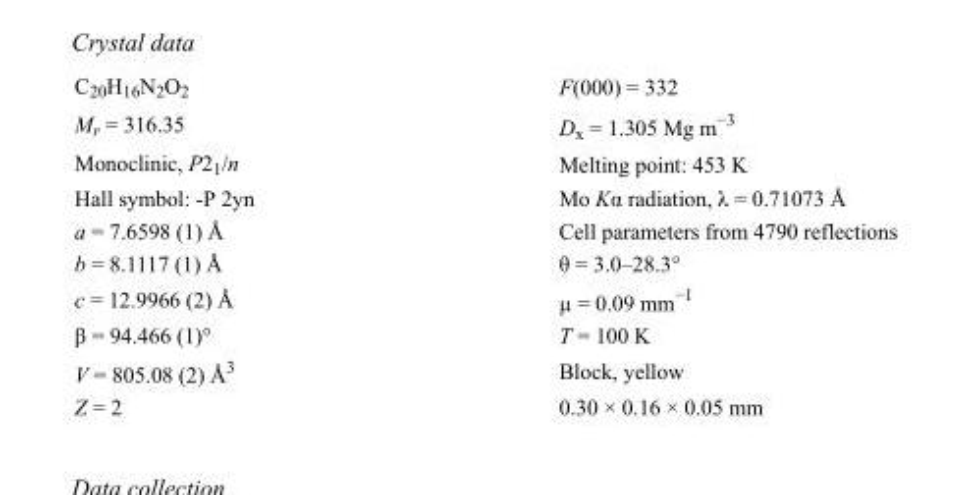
<table><tbody><tr><td>C<sub>20</sub>H<sub>16</sub>N<sub>2</sub>O<sub>2</sub></td><td>F(000) = 332</td></tr><tr><td>M<sub>r</sub> = 316.35</td><td>D<sub>x</sub> = 1.305 Mg m<sup>−3</sup></td></tr><tr><td>Monoclinic, P2<sub>1</sub>/n</td><td>Melting point: 453 K</td></tr><tr><td>Hall symbol: -P 2yn</td><td>Mo Kα radiation, λ = 0.71073 Å</td></tr><tr><td>a = 7.6598 (1) Å</td><td>Cell parameters from 4790 reflections</td></tr><tr><td>b = 8.1117 (1) Å</td><td>θ = 3.0–28.3°</td></tr><tr><td>c = 12.9966 (2) Å</td><td>µ = 0.09 mm<sup>−1</sup></td></tr><tr><td>β = 94.466 (1)°</td><td>T = 100 K</td></tr><tr><td>V = 805.08 (2) Å<sup>3</sup></td><td>Block, yellow</td></tr><tr><td>Z = 2</td><td>0.30 × 0.16 × 0.05 mm</td></tr></tbody></table>